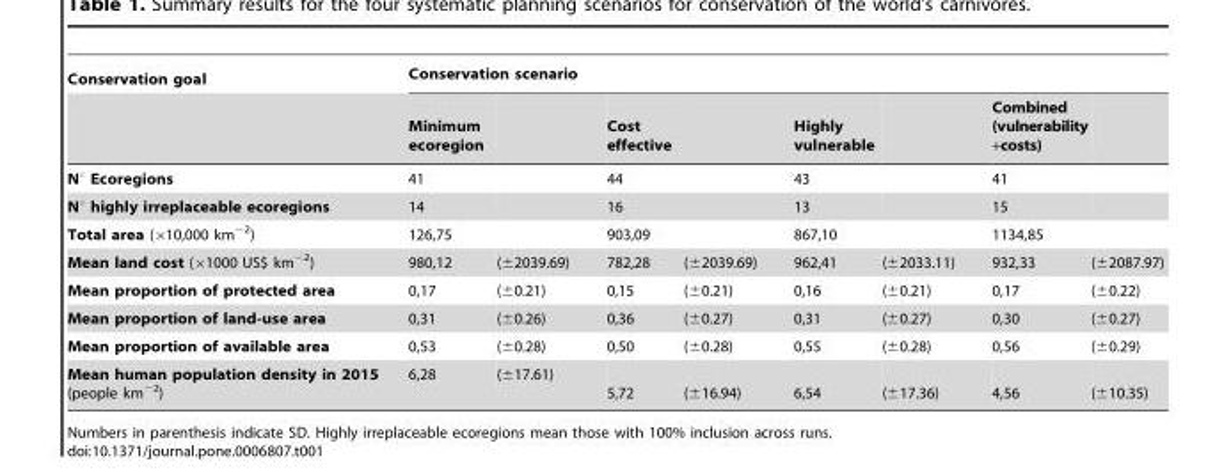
<table><thead><tr><td rowspan="2">Conservation goal</td><td colspan="8">Conservation scenario</td></tr><tr><td>Minimum ecoregion</td><td></td><td>Cost effective</td><td></td><td>Highly vulnerable</td><td></td><td>Combined (vulnerability +costs)</td><td></td></tr></thead><tbody><tr><td>N° Ecoregions</td><td>41</td><td></td><td>44</td><td></td><td>43</td><td></td><td>41</td><td></td></tr><tr><td>N° highly irreplaceable ecoregions</td><td>14</td><td></td><td>16</td><td></td><td>13</td><td></td><td>15</td><td></td></tr><tr><td>Total area (×10,000 km<sup>−2</sup>)</td><td>126,75</td><td></td><td>903,09</td><td></td><td>867,10</td><td></td><td>1134,85</td><td></td></tr><tr><td>Mean land cost (×1000 US$ km<sup>−2</sup>)</td><td>980,12</td><td>(±2039.69)</td><td>782,28</td><td>(±2039.69)</td><td>962,41</td><td>(±2033.11)</td><td>932,33</td><td>(±2087.97)</td></tr><tr><td>Mean proportion of protected area</td><td>0,17</td><td>(±0.21)</td><td>0,15</td><td>(±0.21)</td><td>0,16</td><td>(±0.21)</td><td>0,17</td><td>(±0.22)</td></tr><tr><td>Mean proportion of land-use area</td><td>0,31</td><td>(±0.26)</td><td>0,36</td><td>(±0.27)</td><td>0,31</td><td>(±0.27)</td><td>0,30</td><td>(±0.27)</td></tr><tr><td>Mean proportion of available area</td><td>0,53</td><td>(±0.28)</td><td>0,50</td><td>(±0.28)</td><td>0,55</td><td>(±0.28)</td><td>0,56</td><td>(±0.29)</td></tr><tr><td>Mean human population density in 2015 (people km<sup>−2</sup>)</td><td>6,28</td><td>(±17.61)</td><td>5,72</td><td>(±16.94)</td><td>6,54</td><td>(±17.36)</td><td>4,56</td><td>(±10.35)</td></tr></tbody></table>